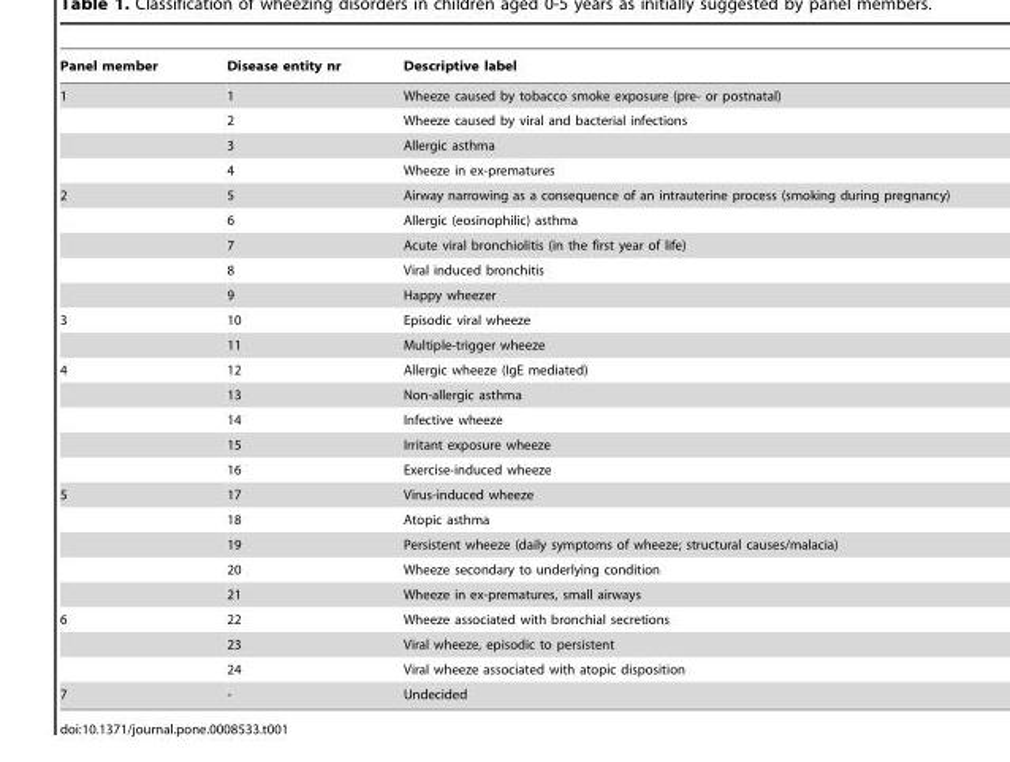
<table><thead><tr><td>Panel member</td><td>Disease entity nr</td><td>Descriptive label</td></tr></thead><tbody><tr><td rowspan="4">1</td><td>1</td><td>Wheeze caused by tobacco smoke exposure (pre- or postnatal)</td></tr><tr><td>2</td><td>Wheeze caused by viral and bacterial infections</td></tr><tr><td>3</td><td>Allergic asthma</td></tr><tr><td>4</td><td>Wheeze in ex-prematures</td></tr><tr><td rowspan="5">2</td><td>5</td><td>Airway narrowing as a consequence of an intrauterine process (smoking during pregnancy)</td></tr><tr><td>6</td><td>Allergic (eosinophilic) asthma</td></tr><tr><td>7</td><td>Acute viral bronchiolitis (in the first year of life)</td></tr><tr><td>8</td><td>Viral induced bronchitis</td></tr><tr><td>9</td><td>Happy wheezer</td></tr><tr><td rowspan="2">3</td><td>10</td><td>Episodic viral wheeze</td></tr><tr><td>11</td><td>Multiple-trigger wheeze</td></tr><tr><td rowspan="5">4</td><td>12</td><td>Allergic wheeze (IgE mediated)</td></tr><tr><td>13</td><td>Non-allergic asthma</td></tr><tr><td>14</td><td>Infective wheeze</td></tr><tr><td>15</td><td>Irritant exposure wheeze</td></tr><tr><td>16</td><td>Exercise-induced wheeze</td></tr><tr><td rowspan="5">5</td><td>17</td><td>Virus-induced wheeze</td></tr><tr><td>18</td><td>Atopic asthma</td></tr><tr><td>19</td><td>Persistent wheeze (daily symptoms of wheeze; structural causes/malacia)</td></tr><tr><td>20</td><td>Wheeze secondary to underlying condition</td></tr><tr><td>21</td><td>Wheeze in ex-prematures, small airways</td></tr><tr><td rowspan="3">6</td><td>22</td><td>Wheeze associated with bronchial secretions</td></tr><tr><td>23</td><td>Viral wheeze, episodic to persistent</td></tr><tr><td>24</td><td>Viral wheeze associated with atopic disposition</td></tr><tr><td>7</td><td>-</td><td>Undecided</td></tr></tbody></table>